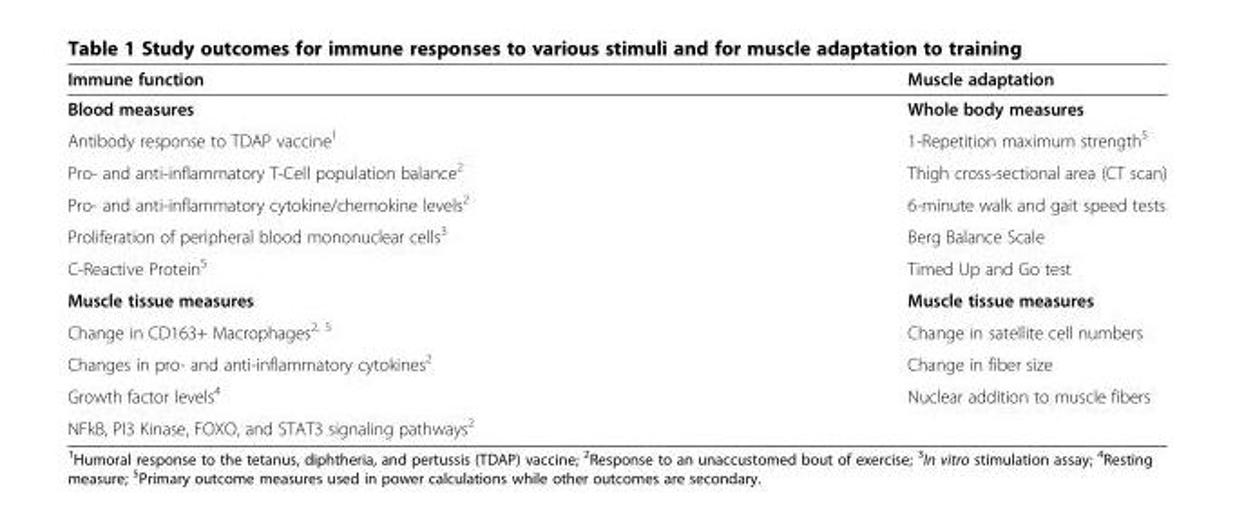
<table><thead><tr><td>Immune function</td><td>Muscle adaptation</td></tr></thead><tbody><tr><td>Blood measures</td><td>Whole body measures</td></tr><tr><td>Antibody response to TDAP vaccine<sup>1</sup></td><td>1-Repetition maximum strength<sup>5</sup></td></tr><tr><td>Pro- and anti-inflammatory T-Cell population balance<sup>2</sup></td><td>Thigh cross-sectional area (CT scan)</td></tr><tr><td>Pro- and anti-inflammatory cytokine/chemokine levels<sup>2</sup></td><td>6-minute walk and gait speed tests</td></tr><tr><td>Proliferation of peripheral blood mononuclear cells<sup>3</sup></td><td>Berg Balance Scale</td></tr><tr><td>C-Reactive Protein<sup>5</sup></td><td>Timed Up and Go test</td></tr><tr><td>Muscle tissue measures</td><td>Muscle tissue measures</td></tr><tr><td>Change in CD163+ Macrophages<sup>2, 5</sup></td><td>Change in satellite cell numbers</td></tr><tr><td>Changes in pro- and anti-inflammatory cytokines<sup>2</sup></td><td>Change in fiber size</td></tr><tr><td>Growth factor levels<sup>4</sup></td><td>Nuclear addition to muscle fibers</td></tr><tr><td>NFkB, PI3 Kinase, FOXO, and STAT3 signaling pathways<sup>2</sup></td><td></td></tr></tbody></table>